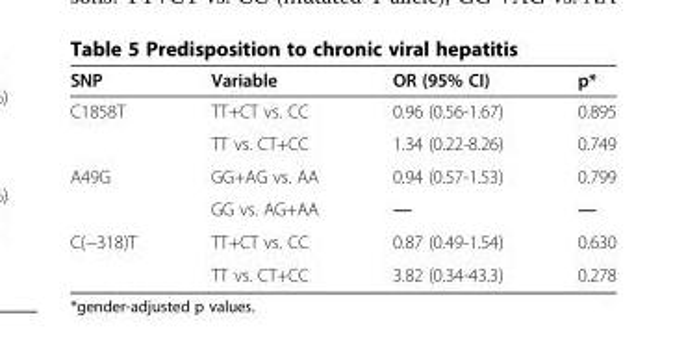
<table><thead><tr><td>SNP</td><td>Variable</td><td>OR (95% CI)</td><td>p*</td></tr></thead><tbody><tr><td rowspan="2">C1858T</td><td>TT+CT vs. CC</td><td>0.96 (0.56-1.67)</td><td>0.895</td></tr><tr><td>TT vs. CT+CC</td><td>1.34 (0.22-8.26)</td><td>0.749</td></tr><tr><td rowspan="2">A49G</td><td>GG+AG vs. AA</td><td>0.94 (0.57-1.53)</td><td>0.799</td></tr><tr><td>GG vs. AG+AA</td><td>—</td><td>—</td></tr><tr><td rowspan="2">C(−318)T</td><td>TT+CT vs. CC</td><td>0.87 (0.49-1.54)</td><td>0.630</td></tr><tr><td>TT vs. CT+CC</td><td>3.82 (0.34-43.3)</td><td>0.278</td></tr></tbody></table>